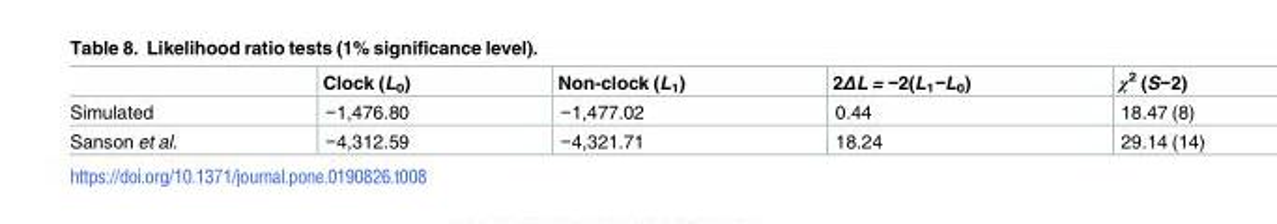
<table><thead><tr><td></td><td>Clock (L<sub>0</sub>)</td><td>Non-clock (L<sub>1</sub>)</td><td>2ΔL = −2(L<sub>1</sub>−L<sub>0</sub>)</td><td>χ<sup>2</sup> (S−2)</td></tr></thead><tbody><tr><td>Simulated</td><td>−1,476.80</td><td>−1,477.02</td><td>0.44</td><td>18.47 (8)</td></tr><tr><td>Sanson et al.</td><td>−4,312.59</td><td>−4,321.71</td><td>18.24</td><td>29.14 (14)</td></tr></tbody></table>